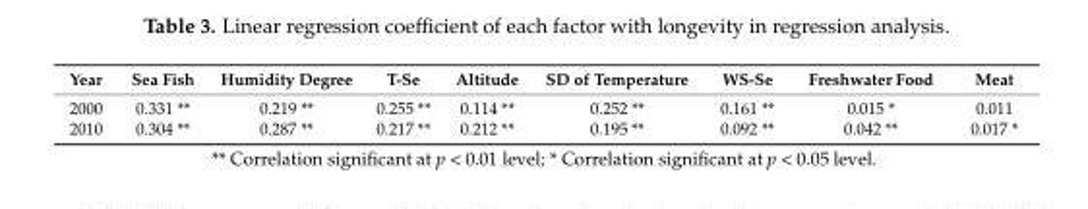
<table><thead><tr><td>Year</td><td>Sea Fish</td><td>Humidity Degree</td><td>T-Se</td><td>Altitude</td><td>SD of Temperature</td><td>WS-Se</td><td>Freshwater Food</td><td>Meat</td></tr></thead><tbody><tr><td>2000</td><td>0.331 **</td><td>0.219 **</td><td>0.255 **</td><td>0.114 **</td><td>0.252 **</td><td>0.161 **</td><td>0.015 *</td><td>0.011</td></tr><tr><td>2010</td><td>0.304 **</td><td>0.287 **</td><td>0.217 **</td><td>0.212 **</td><td>0.195 **</td><td>0.092 **</td><td>0.042 **</td><td>0.017 *</td></tr></tbody></table>